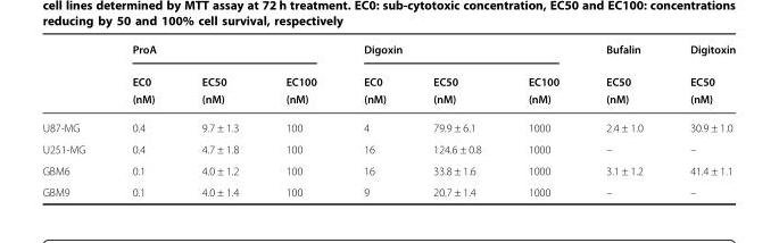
<table><thead><tr><td rowspan="2"></td><td colspan="3">ProA</td><td colspan="3">Digoxin</td><td rowspan="2">Bufalin EC50 (nM)</td><td rowspan="2">Digitoxin EC50 (nM)</td></tr><tr><td>EC0 (nM)</td><td>EC50 (nM)</td><td>EC100 (nM)</td><td>EC0 (nM)</td><td>EC50 (nM)</td><td>EC100 (nM)</td></tr></thead><tbody><tr><td>U87-MG</td><td>0.4</td><td>9.7 ± 1.3</td><td>100</td><td>4</td><td>79.9 ± 6.1</td><td>1000</td><td>2.4 ± 1.0</td><td>30.9 ± 1.0</td></tr><tr><td>U251-MG</td><td>0.4</td><td>4.7 ± 1.8</td><td>100</td><td>16</td><td>124.6 ± 0.8</td><td>1000</td><td>–</td><td>–</td></tr><tr><td>GBM6</td><td>0.1</td><td>4.0 ± 1.2</td><td>100</td><td>16</td><td>33.8 ± 1.6</td><td>1000</td><td>3.1 ± 1.2</td><td>41.4 ± 1.1</td></tr><tr><td>GBM9</td><td>0.1</td><td>4.0 ± 1.4</td><td>100</td><td>9</td><td>20.7 ± 1.4</td><td>1000</td><td>–</td><td>–</td></tr></tbody></table>